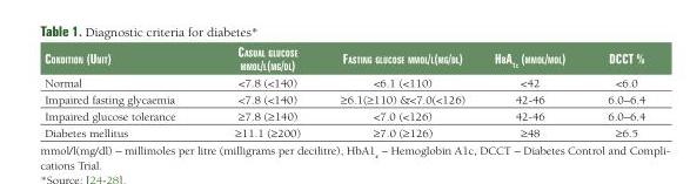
<table><thead><tr><td>Condition (Unit)</td><td>CasUal glUCose mmol/l(mg/dl)</td><td>Fasting glUCose mmol/l(mg/dl)</td><td>Hba<sub>1C</sub> (mmol/mol)</td><td>dCCt %</td></tr></thead><tbody><tr><td>Normal</td><td>&lt;7.8 (&lt;140)</td><td>&lt;6.1 (&lt;110)</td><td>&lt;42</td><td>&lt;6.0</td></tr><tr><td>Impaired fasting glycaemia</td><td>&lt;7.8 (&lt;140)</td><td>≥6.1(≥110) &amp;&lt;7.0(&lt;126)</td><td>42-46</td><td>6.0–6.4</td></tr><tr><td>Impaired glucose tolerance</td><td>≥7.8 (≥140)</td><td>&lt;7.0 (&lt;126)</td><td>42-46</td><td>6.0–6.4</td></tr><tr><td>Diabetes mellitus</td><td>≥11.1 (≥200)</td><td>≥7.0 (≥126)</td><td>≥48</td><td>≥6.5</td></tr></tbody></table>